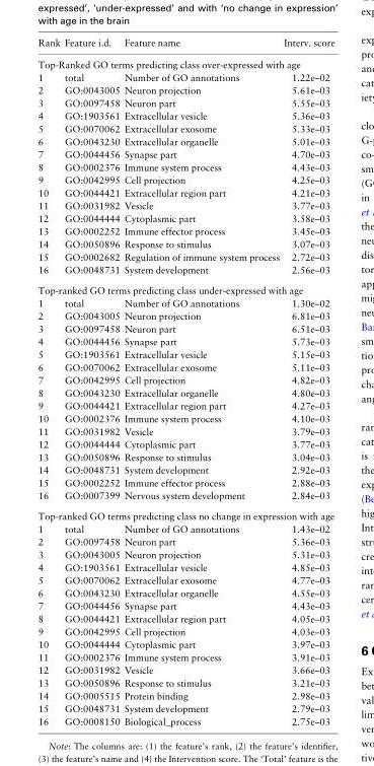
<table><thead><tr><td>Rank</td><td>Feature i.d.</td><td>Feature name</td><td>Interv. score</td></tr></thead><tbody><tr><td colspan="4">Top-Ranked GO terms predicting class over-expressed with age</td></tr><tr><td>1</td><td>total</td><td>Number of GO annotations</td><td>1.22e–02</td></tr><tr><td>2</td><td>GO:0043005</td><td>Neuron projection</td><td>5.61e–03</td></tr><tr><td>3</td><td>GO:0097458</td><td>Neuron part</td><td>5.55e–03</td></tr><tr><td>4</td><td>GO:1903561</td><td>Extracellular vesicle</td><td>5.36e–03</td></tr><tr><td>5</td><td>GO:0070062</td><td>Extracellular exosome</td><td>5.33e–03</td></tr><tr><td>6</td><td>GO:0043230</td><td>Extracellular organelle</td><td>5.01e–03</td></tr><tr><td>7</td><td>GO:0044456</td><td>Synapse part</td><td>4.70e–03</td></tr><tr><td>8</td><td>GO:0002376</td><td>Immune system process</td><td>4.43e–03</td></tr><tr><td>9</td><td>GO:0042995</td><td>Cell projection</td><td>4.25e–03</td></tr><tr><td>10</td><td>GO:0044421</td><td>Extracellular region part</td><td>4.21e–03</td></tr><tr><td>11</td><td>GO:0031982</td><td>Vesicle</td><td>3.77e–03</td></tr><tr><td>12</td><td>GO:0044444</td><td>Cytoplasmic part</td><td>3.58e–03</td></tr><tr><td>13</td><td>GO:0002252</td><td>Immune effector process</td><td>3.45e–03</td></tr><tr><td>14</td><td>GO:0050896</td><td>Response to stimulus</td><td>3.07e–03</td></tr><tr><td>15</td><td>GO:0002682</td><td>Regulation of immune system process</td><td>2.72e–03</td></tr><tr><td>16</td><td>GO:0048731</td><td>System development</td><td>2.56e–03</td></tr><tr><td colspan="4">Top-ranked GO terms predicting class under-expressed with age</td></tr><tr><td>1</td><td>total</td><td>Number of GO annotations</td><td>1.30e–02</td></tr><tr><td>2</td><td>GO:0043005</td><td>Neuron projection</td><td>6.81e–03</td></tr><tr><td>3</td><td>GO:0097458</td><td>Neuron part</td><td>6.51e–03</td></tr><tr><td>4</td><td>GO:0044456</td><td>Synapse part</td><td>5.73e–03</td></tr><tr><td>5</td><td>GO:1903561</td><td>Extracellular vesicle</td><td>5.15e–03</td></tr><tr><td>6</td><td>GO:0070062</td><td>Extracellular exosome</td><td>5.11e–03</td></tr><tr><td>7</td><td>GO:0042995</td><td>Cell projection</td><td>4.82e–03</td></tr><tr><td>8</td><td>GO:0043230</td><td>Extracellular organelle</td><td>4.80e–03</td></tr><tr><td>9</td><td>GO:0044421</td><td>Extracellular region part</td><td>4.27e–03</td></tr><tr><td>10</td><td>GO:0002376</td><td>Immune system process</td><td>4.10e–03</td></tr><tr><td>11</td><td>GO:0031982</td><td>Vesicle</td><td>3.79e–03</td></tr><tr><td>12</td><td>GO:0044444</td><td>Cytoplasmic part</td><td>3.77e–03</td></tr><tr><td>13</td><td>GO:0050896</td><td>Response to stimulus</td><td>3.04e–03</td></tr><tr><td>14</td><td>GO:0048731</td><td>System development</td><td>2.92e–03</td></tr><tr><td>15</td><td>GO:0002252</td><td>Immune effector process</td><td>2.88e–03</td></tr><tr><td>16</td><td>GO:0007399</td><td>Nervous system development</td><td>2.84e–03</td></tr><tr><td colspan="4">Top-ranked GO terms predicting class no change in expression with age</td></tr><tr><td>1</td><td>total</td><td>Number of GO annotations</td><td>1.43e–02</td></tr><tr><td>2</td><td>GO:0097458</td><td>Neuron part</td><td>5.36e–03</td></tr><tr><td>3</td><td>GO:0043005</td><td>Neuron projection</td><td>5.31e–03</td></tr><tr><td>4</td><td>GO:1903561</td><td>Extracellular vesicle</td><td>4.85e–03</td></tr><tr><td>5</td><td>GO:0070062</td><td>Extracellular exosome</td><td>4.77e–03</td></tr><tr><td>6</td><td>GO:0043230</td><td>Extracellular organelle</td><td>4.55e–03</td></tr><tr><td>7</td><td>GO:0044456</td><td>Synapse part</td><td>4.43e–03</td></tr><tr><td>8</td><td>GO:0044421</td><td>Extracellular region part</td><td>4.05e–03</td></tr><tr><td>9</td><td>GO:0042995</td><td>Cell projection</td><td>4.03e–03</td></tr><tr><td>10</td><td>GO:0044444</td><td>Cytoplasmic part</td><td>3.97e–03</td></tr><tr><td>11</td><td>GO:0002376</td><td>Immune system process</td><td>3.91e–03</td></tr><tr><td>12</td><td>GO:0031982</td><td>Vesicle</td><td>3.66e–03</td></tr><tr><td>13</td><td>GO:0050896</td><td>Response to stimulus</td><td>3.21e–03</td></tr><tr><td>14</td><td>GO:0005515</td><td>Protein binding</td><td>2.98e–03</td></tr><tr><td>15</td><td>GO:0048731</td><td>System development</td><td>2.79e–03</td></tr><tr><td>16</td><td>GO:0008150</td><td>Biological_process</td><td>2.75e–03</td></tr></tbody></table>